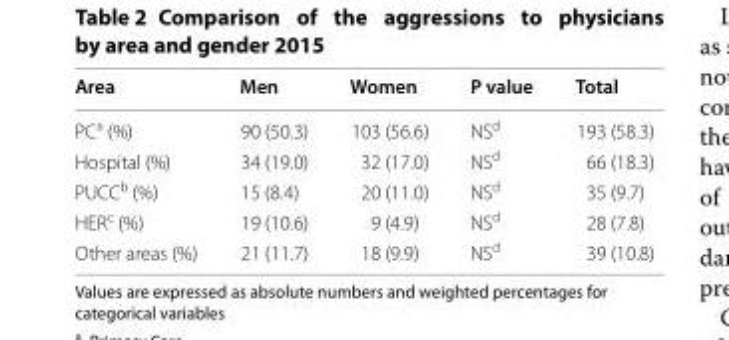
<table><thead><tr><td>Area</td><td>Men</td><td>Women</td><td>P value</td><td>Total</td></tr></thead><tbody><tr><td>PC<sup>a</sup> (%)</td><td>90 (50.3)</td><td>103 (56.6)</td><td>NS<sup>d</sup></td><td>193 (58.3)</td></tr><tr><td>Hospital (%)</td><td>34 (19.0)</td><td>32 (17.0)</td><td>NS<sup>d</sup></td><td>66 (18.3)</td></tr><tr><td>PUCC <sup>b</sup> (%)</td><td>15 (8.4)</td><td>20 (11.0)</td><td>NS<sup>d</sup></td><td>35 (9.7)</td></tr><tr><td>HER<sup>c</sup> (%)</td><td>19 (10.6)</td><td>9 (4.9)</td><td>NS<sup>d</sup></td><td>28 (7.8)</td></tr><tr><td>Other areas (%)</td><td>21 (11.7)</td><td>18 (9.9)</td><td>NS<sup>d</sup></td><td>39 (10.8)</td></tr></tbody></table>